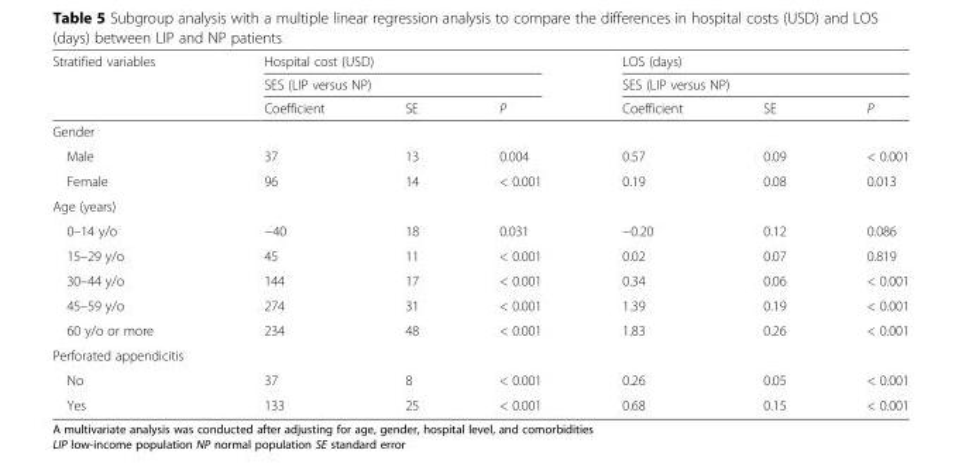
<table><thead><tr><td rowspan="3">Stratified variables</td><td rowspan="2" colspan="3">Hospital cost (USD) SES (LIP versus NP)</td><td rowspan="2" colspan="3">LOS (days) SES (LIP versus NP)</td></tr><tr></tr><tr><td>Coefficient</td><td>SE</td><td>P</td><td>Coefficient</td><td>SE</td><td>P</td></tr></thead><tbody><tr><td colspan="7">Gender</td></tr><tr><td>Male</td><td>37</td><td>13</td><td>0.004</td><td>0.57</td><td>0.09</td><td>&lt; 0.001</td></tr><tr><td>Female</td><td>96</td><td>14</td><td>&lt; 0.001</td><td>0.19</td><td>0.08</td><td>0.013</td></tr><tr><td colspan="7">Age (years)</td></tr><tr><td>0–14 y/o</td><td>−40</td><td>18</td><td>0.031</td><td>−0.20</td><td>0.12</td><td>0.086</td></tr><tr><td>15–29 y/o</td><td>45</td><td>11</td><td>&lt; 0.001</td><td>0.02</td><td>0.07</td><td>0.819</td></tr><tr><td>30–44 y/o</td><td>144</td><td>17</td><td>&lt; 0.001</td><td>0.34</td><td>0.06</td><td>&lt; 0.001</td></tr><tr><td>45–59 y/o</td><td>274</td><td>31</td><td>&lt; 0.001</td><td>1.39</td><td>0.19</td><td>&lt; 0.001</td></tr><tr><td>60 y/o or more</td><td>234</td><td>48</td><td>&lt; 0.001</td><td>1.83</td><td>0.26</td><td>&lt; 0.001</td></tr><tr><td colspan="7">Perforated appendicitis</td></tr><tr><td>No</td><td>37</td><td>8</td><td>&lt; 0.001</td><td>0.26</td><td>0.05</td><td>&lt; 0.001</td></tr><tr><td>Yes</td><td>133</td><td>25</td><td>&lt; 0.001</td><td>0.68</td><td>0.15</td><td>&lt; 0.001</td></tr></tbody></table>